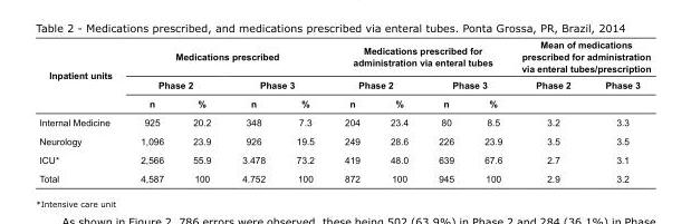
<table><tbody><tr><td rowspan="3">Inpatient units</td><td colspan="4">Medications prescribed</td><td colspan="4">Medications prescribed for administration via enteral tubes</td><td colspan="2">Mean of medications prescribed for administration via enteral tubes/prescription</td></tr><tr><td colspan="2">Phase 2</td><td colspan="2">Phase 3</td><td colspan="2">Phase 2</td><td colspan="2">Phase 3</td><td>Phase 2</td><td>Phase 3</td></tr><tr><td>n</td><td>%</td><td>n</td><td>%</td><td>n</td><td>%</td><td>n</td><td>%</td><td></td><td></td></tr><tr><td>Internal Medicine</td><td>925</td><td>20.2</td><td>348</td><td>7.3</td><td>204</td><td>23.4</td><td>80</td><td>8.5</td><td>3.2</td><td>3.3</td></tr><tr><td>Neurology</td><td>1,096</td><td>23.9</td><td>926</td><td>19.5</td><td>249</td><td>28.6</td><td>226</td><td>23.9</td><td>3.5</td><td>3.5</td></tr><tr><td>ICU*</td><td>2,566</td><td>55.9</td><td>3.478</td><td>73.2</td><td>419</td><td>48.0</td><td>639</td><td>67.6</td><td>2.7</td><td>3.1</td></tr><tr><td>Total</td><td>4,587</td><td>100</td><td>4.752</td><td>100</td><td>872</td><td>100</td><td>945</td><td>100</td><td>2.9</td><td>3.2</td></tr></tbody></table>